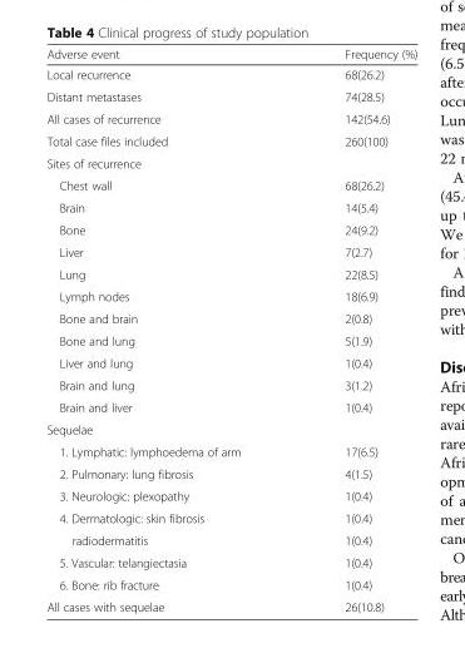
<table><thead><tr><td>Adverse event</td><td>Frequency (%)</td></tr></thead><tbody><tr><td>Local recurrence</td><td>68(26.2)</td></tr><tr><td>Distant metastases</td><td>74(28.5)</td></tr><tr><td>All cases of recurrence</td><td>142(54.6)</td></tr><tr><td>Total case files included</td><td>260(100)</td></tr><tr><td colspan="2">Sites of recurrence</td></tr><tr><td>Chest wall</td><td>68(26.2)</td></tr><tr><td>Brain</td><td>14(5.4)</td></tr><tr><td>Bone</td><td>24(9.2)</td></tr><tr><td>Liver</td><td>7(2.7)</td></tr><tr><td>Lung</td><td>22(8.5)</td></tr><tr><td>Lymph nodes</td><td>18(6.9)</td></tr><tr><td>Bone and brain</td><td>2(0.8)</td></tr><tr><td>Bone and lung</td><td>5(1.9)</td></tr><tr><td>Liver and lung</td><td>1(0.4)</td></tr><tr><td>Brain and lung</td><td>3(1.2)</td></tr><tr><td>Brain and liver</td><td>1(0.4)</td></tr><tr><td colspan="2">Sequelae</td></tr><tr><td>1. Lymphatic: lymphoedema of arm</td><td>17(6.5)</td></tr><tr><td>2. Pulmonary: lung fibrosis</td><td>4(1.5)</td></tr><tr><td>3. Neurologic: plexopathy</td><td>1(0.4)</td></tr><tr><td>4. Dermatologic: skin fibrosis</td><td>1(0.4)</td></tr><tr><td>radiodermatitis</td><td>1(0.4)</td></tr><tr><td>5. Vascular: telangiectasia</td><td>1(0.4)</td></tr><tr><td>6. Bone: rib fracture</td><td>1(0.4)</td></tr><tr><td>All cases with sequelae</td><td>26(10.8)</td></tr></tbody></table>